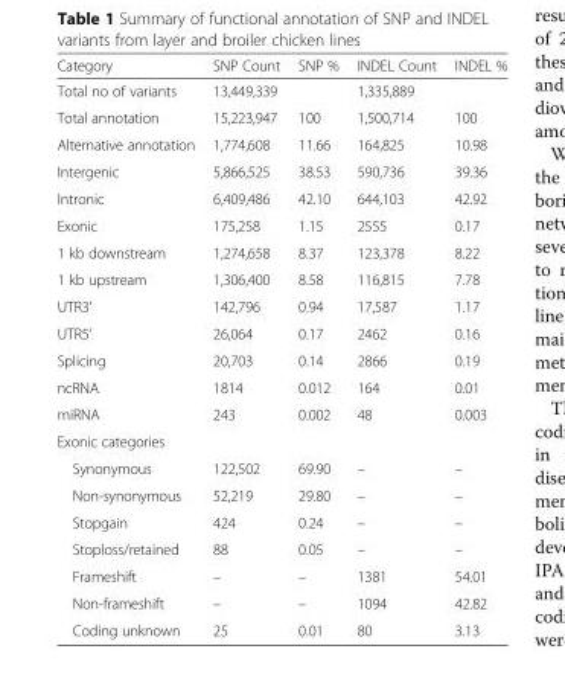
<table><thead><tr><td>Category</td><td>SNP Count</td><td>SNP %</td><td>INDEL Count</td><td>INDEL %</td></tr></thead><tbody><tr><td>Total no of variants</td><td>13,449,339</td><td></td><td>1,335,889</td><td></td></tr><tr><td>Total annotation</td><td>15,223,947</td><td>100</td><td>1,500,714</td><td>100</td></tr><tr><td>Alternative annotation</td><td>1,774,608</td><td>11.66</td><td>164,825</td><td>10.98</td></tr><tr><td>Intergenic</td><td>5,866,525</td><td>38.53</td><td>590,736</td><td>39.36</td></tr><tr><td>Intronic</td><td>6,409,486</td><td>42.10</td><td>644,103</td><td>42.92</td></tr><tr><td>Exonic</td><td>175,258</td><td>1.15</td><td>2555</td><td>0.17</td></tr><tr><td>1 kb downstream</td><td>1,274,658</td><td>8.37</td><td>123,378</td><td>8.22</td></tr><tr><td>1 kb upstream</td><td>1,306,400</td><td>8.58</td><td>116,815</td><td>7.78</td></tr><tr><td>UTR3’</td><td>142,796</td><td>0.94</td><td>17,587</td><td>1.17</td></tr><tr><td>UTR5’</td><td>26,064</td><td>0.17</td><td>2462</td><td>0.16</td></tr><tr><td>Splicing</td><td>20,703</td><td>0.14</td><td>2866</td><td>0.19</td></tr><tr><td>ncRNA</td><td>1814</td><td>0.012</td><td>164</td><td>0.01</td></tr><tr><td>miRNA</td><td>243</td><td>0.002</td><td>48</td><td>0.003</td></tr><tr><td colspan="5">Exonic categories</td></tr><tr><td>Synonymous</td><td>122,502</td><td>69.90</td><td>–</td><td>–</td></tr><tr><td>Non-synonymous</td><td>52,219</td><td>29.80</td><td>–</td><td>–</td></tr><tr><td>Stopgain</td><td>424</td><td>0.24</td><td>–</td><td>–</td></tr><tr><td>Stoploss/retained</td><td>88</td><td>0.05</td><td>–</td><td>–</td></tr><tr><td>Frameshift</td><td>–</td><td>–</td><td>1381</td><td>54.01</td></tr><tr><td>Non-frameshift</td><td>–</td><td>–</td><td>1094</td><td>42.82</td></tr><tr><td>Coding unknown</td><td>25</td><td>0.01</td><td>80</td><td>3.13</td></tr></tbody></table>